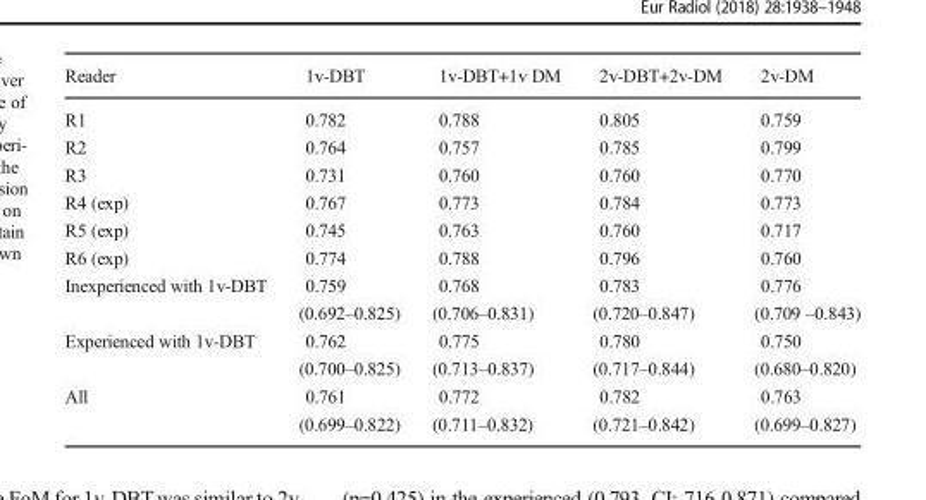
<table><thead><tr><td>Reader</td><td>1v-DBT</td><td>1v-DBT+1v DM</td><td>2v-DBT+2v-DM</td><td>2v-DM</td></tr></thead><tbody><tr><td>R1</td><td>0.782</td><td>0.788</td><td>0.805</td><td>0.759</td></tr><tr><td>R2</td><td>0.764</td><td>0.757</td><td>0.785</td><td>0.799</td></tr><tr><td>R3</td><td>0.731</td><td>0.760</td><td>0.760</td><td>0.770</td></tr><tr><td>R4 (exp)</td><td>0.767</td><td>0.773</td><td>0.784</td><td>0.773</td></tr><tr><td>R5 (exp)</td><td>0.745</td><td>0.763</td><td>0.760</td><td>0.717</td></tr><tr><td>R6 (exp)</td><td>0.774</td><td>0.788</td><td>0.796</td><td>0.760</td></tr><tr><td>Inexperienced with 1v-DBT</td><td>0.759 (0.692–0.825)</td><td>0.768 (0.706–0.831)</td><td>0.783 (0.720–0.847)</td><td>0.776 (0.709 –0.843)</td></tr><tr><td>Experienced with 1v-DBT</td><td>0.762 (0.700–0.825)</td><td>0.775 (0.713–0.837)</td><td>0.780 (0.717–0.844)</td><td>0.750 (0.680–0.820)</td></tr><tr><td>All</td><td>0.761 (0.699–0.822)</td><td>0.772 (0.711–0.832)</td><td>0.782 (0.721–0.842)</td><td>0.763 (0.699–0.827)</td></tr></tbody></table>